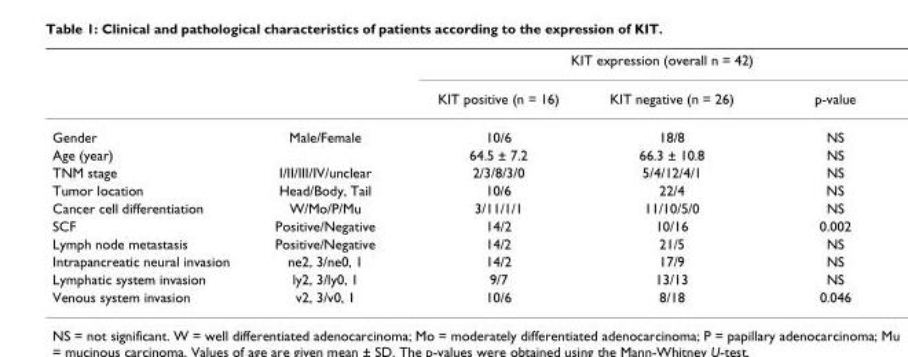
<table><thead><tr><td rowspan="2"></td><td rowspan="2"></td><td colspan="3">KIT expression (overall n = 42)</td></tr><tr><td>KIT positive (n = 16)</td><td>KIT negative (n = 26)</td><td>p-value</td></tr></thead><tbody><tr><td>Gender</td><td>Male/Female</td><td>10/6</td><td>18/8</td><td>NS</td></tr><tr><td>Age (year)</td><td></td><td>64.5 ± 7.2</td><td>66.3 ± 10.8</td><td>NS</td></tr><tr><td>TNM stage</td><td>I/II/III/IV/unclear</td><td>2/3/8/3/0</td><td>5/4/12/4/1</td><td>NS</td></tr><tr><td>Tumor location</td><td>Head/Body, Tail</td><td>10/6</td><td>22/4</td><td>NS</td></tr><tr><td>Cancer cell differentiation</td><td>W/Mo/P/Mu</td><td>3/11/1/1</td><td>11/10/5/0</td><td>NS</td></tr><tr><td>SCF</td><td>Positive/Negative</td><td>14/2</td><td>10/16</td><td>0.002</td></tr><tr><td>Lymph node metastasis</td><td>Positive/Negative</td><td>14/2</td><td>21/5</td><td>NS</td></tr><tr><td>Intrapancreatic neural invasion</td><td>ne2, 3/ne0, 1</td><td>14/2</td><td>17/9</td><td>NS</td></tr><tr><td>Lymphatic system invasion</td><td>ly2, 3/ly0, 1</td><td>9/7</td><td>13/13</td><td>NS</td></tr><tr><td>Venous system invasion</td><td>v2, 3/v0, 1</td><td>10/6</td><td>8/18</td><td>0.046</td></tr></tbody></table>